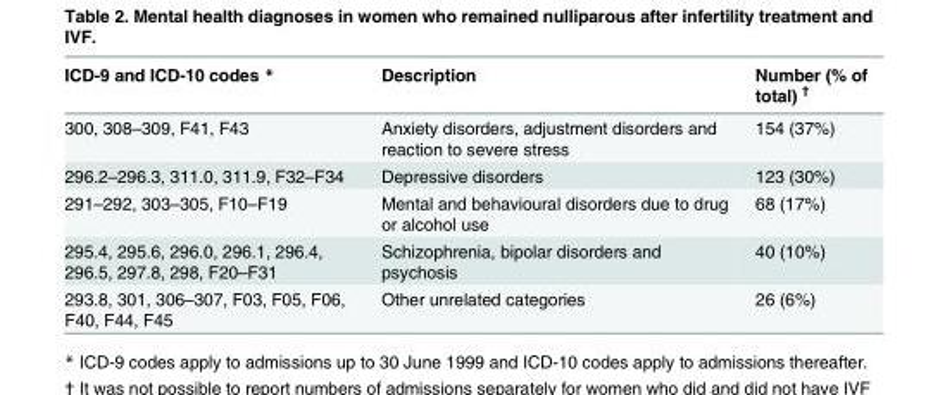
<table><thead><tr><td>ICD-9 and ICD-10 codes *</td><td>Description</td><td>Number (% of total) <sup>†</sup></td></tr></thead><tbody><tr><td>300, 308–309, F41, F43</td><td>Anxiety disorders, adjustment disorders and reaction to severe stress</td><td>154 (37%)</td></tr><tr><td>296.2–296.3, 311.0, 311.9, F32–F34</td><td>Depressive disorders</td><td>123 (30%)</td></tr><tr><td>291–292, 303–305, F10–F19</td><td>Mental and behavioural disorders due to drug or alcohol use</td><td>68 (17%)</td></tr><tr><td>295.4, 295.6, 296.0, 296.1, 296.4, 296.5, 297.8, 298, F20–F31</td><td>Schizophrenia, bipolar disorders and psychosis</td><td>40 (10%)</td></tr><tr><td>293.8, 301, 306–307, F03, F05, F06, F40, F44, F45</td><td>Other unrelated categories</td><td>26 (6%)</td></tr></tbody></table>